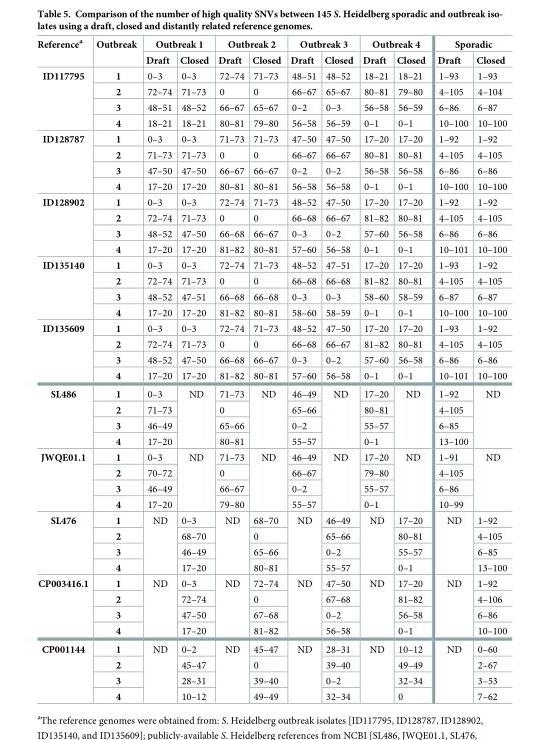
<table><thead><tr><td rowspan="2">Reference<sup>a</sup></td><td rowspan="2">Outbreak</td><td colspan="2">Outbreak 1</td><td colspan="2">Outbreak 2</td><td colspan="2">Outbreak 3</td><td colspan="2">Outbreak 4</td><td colspan="2">Sporadic</td></tr><tr><td>Draft</td><td>Closed</td><td>Draft</td><td>Closed</td><td>Draft</td><td>Closed</td><td>Draft</td><td>Closed</td><td>Draft</td><td>Closed</td></tr></thead><tbody><tr><td rowspan="4">ID117795</td><td>1</td><td>0–3</td><td>0–3</td><td>72–74</td><td>71–73</td><td>48–51</td><td>48–52</td><td>18–21</td><td>18–21</td><td>1–93</td><td>1–93</td></tr><tr><td>2</td><td>72–74</td><td>71–73</td><td>0</td><td>0</td><td>66–67</td><td>65–67</td><td>80–81</td><td>79–80</td><td>4–105</td><td>4–104</td></tr><tr><td>3</td><td>48–51</td><td>48–52</td><td>66–67</td><td>65–67</td><td>0–2</td><td>0–3</td><td>56–58</td><td>56–59</td><td>6–86</td><td>6–87</td></tr><tr><td>4</td><td>18–21</td><td>18–21</td><td>80–81</td><td>79–80</td><td>56–58</td><td>56–59</td><td>0–1</td><td>0–1</td><td>10–100</td><td>10–100</td></tr><tr><td rowspan="4">ID128787</td><td>1</td><td>0–3</td><td>0–3</td><td>71–73</td><td>71–73</td><td>47–50</td><td>47–50</td><td>17–20</td><td>17–20</td><td>1–92</td><td>1–92</td></tr><tr><td>2</td><td>71–73</td><td>71–73</td><td>0</td><td>0</td><td>66–67</td><td>66–67</td><td>80–81</td><td>80–81</td><td>4–105</td><td>4–105</td></tr><tr><td>3</td><td>47–50</td><td>47–50</td><td>66–67</td><td>66–67</td><td>0–2</td><td>0–2</td><td>56–58</td><td>56–58</td><td>6–86</td><td>6–86</td></tr><tr><td>4</td><td>17–20</td><td>17–20</td><td>80–81</td><td>80–81</td><td>56–58</td><td>56–58</td><td>0–1</td><td>0–1</td><td>10–100</td><td>10–100</td></tr><tr><td rowspan="4">ID128902</td><td>1</td><td>0–3</td><td>0–3</td><td>72–74</td><td>71–73</td><td>48–52</td><td>47–50</td><td>17–20</td><td>17–20</td><td>1–92</td><td>1–92</td></tr><tr><td>2</td><td>72–74</td><td>71–73</td><td>0</td><td>0</td><td>66–68</td><td>66–67</td><td>81–82</td><td>80–81</td><td>4–105</td><td>4–105</td></tr><tr><td>3</td><td>48–52</td><td>47–50</td><td>66–68</td><td>66–67</td><td>0–3</td><td>0–2</td><td>57–60</td><td>56–58</td><td>6–86</td><td>6–86</td></tr><tr><td>4</td><td>17–20</td><td>17–20</td><td>81–82</td><td>80–81</td><td>57–60</td><td>56–58</td><td>0–1</td><td>0–1</td><td>10–101</td><td>10–100</td></tr><tr><td rowspan="4">ID135140</td><td>1</td><td>0–3</td><td>0–3</td><td>72–74</td><td>71–73</td><td>48–52</td><td>47–51</td><td>17–20</td><td>17–20</td><td>1–93</td><td>1–92</td></tr><tr><td>2</td><td>72–74</td><td>71–73</td><td>0</td><td>0</td><td>66–68</td><td>66–68</td><td>81–82</td><td>80–81</td><td>4–105</td><td>4–105</td></tr><tr><td>3</td><td>48–52</td><td>47–51</td><td>66–68</td><td>66–68</td><td>0–3</td><td>0–3</td><td>58–60</td><td>58–59</td><td>6–87</td><td>6–87</td></tr><tr><td>4</td><td>17–20</td><td>17–20</td><td>81–82</td><td>80–81</td><td>58–60</td><td>58–59</td><td>0–1</td><td>0–1</td><td>10–100</td><td>10–100</td></tr><tr><td rowspan="4">ID135609</td><td>1</td><td>0–3</td><td>0–3</td><td>72–74</td><td>71–73</td><td>48–52</td><td>47–50</td><td>17–20</td><td>17–20</td><td>1–93</td><td>1–92</td></tr><tr><td>2</td><td>72–74</td><td>71–73</td><td>0</td><td>0</td><td>66–68</td><td>66–67</td><td>81–82</td><td>80–81</td><td>4–105</td><td>4–105</td></tr><tr><td>3</td><td>48–52</td><td>47–50</td><td>66–68</td><td>66–67</td><td>0–3</td><td>0–2</td><td>57–60</td><td>56–58</td><td>6–86</td><td>6–86</td></tr><tr><td>4</td><td>17–20</td><td>17–20</td><td>81–82</td><td>80–81</td><td>57–60</td><td>56–58</td><td>0–1</td><td>0–1</td><td>10–101</td><td>10–100</td></tr><tr><td rowspan="4">SL486</td><td>1</td><td>0–3</td><td rowspan="4">ND</td><td>71–73</td><td rowspan="4">ND</td><td>46–49</td><td rowspan="4">ND</td><td>17–20</td><td rowspan="4">ND</td><td>1–92</td><td rowspan="4">ND</td></tr><tr><td>2</td><td>71–73</td><td>0</td><td>65–66</td><td>80–81</td><td>4–105</td></tr><tr><td>3</td><td>46–49</td><td>65–66</td><td>0–2</td><td>55–57</td><td>6–85</td></tr><tr><td>4</td><td>17–20</td><td>80–81</td><td>55–57</td><td>0–1</td><td>13–100</td></tr><tr><td rowspan="4">JWQE01.1</td><td>1</td><td>0–3</td><td rowspan="4">ND</td><td>71–73</td><td rowspan="4">ND</td><td>46–49</td><td rowspan="4">ND</td><td>17–20</td><td rowspan="4">ND</td><td>1–91</td><td rowspan="4">ND</td></tr><tr><td>2</td><td>70–72</td><td>0</td><td>66–67</td><td>79–80</td><td>4–105</td></tr><tr><td>3</td><td>46–49</td><td>66–67</td><td>0–2</td><td>55–57</td><td>6–86</td></tr><tr><td>4</td><td>17–20</td><td>79–80</td><td>55–57</td><td>0–1</td><td>10–99</td></tr><tr><td rowspan="4">SL476</td><td>1</td><td rowspan="4">ND</td><td>0–3</td><td rowspan="4">ND</td><td>68–70</td><td rowspan="4">ND</td><td>46–49</td><td rowspan="4">ND</td><td>17–20</td><td rowspan="4">ND</td><td>1–92</td></tr><tr><td>2</td><td>68–70</td><td>0</td><td>65–66</td><td>80–81</td><td>4–105</td></tr><tr><td>3</td><td>46–49</td><td>65–66</td><td>0–2</td><td>55–57</td><td>6–85</td></tr><tr><td>4</td><td>17–20</td><td>80–81</td><td>55–57</td><td>0–1</td><td>13–100</td></tr><tr><td rowspan="4">CP003416.1</td><td>1</td><td rowspan="4">ND</td><td>0–3</td><td rowspan="4">ND</td><td>72–74</td><td rowspan="4">ND</td><td>47–50</td><td rowspan="4">ND</td><td>17–20</td><td rowspan="4">ND</td><td>1–92</td></tr><tr><td>2</td><td>72–74</td><td>0</td><td>67–68</td><td>81–82</td><td>4–106</td></tr><tr><td>3</td><td>47–50</td><td>67–68</td><td>0–2</td><td>56–58</td><td>6–86</td></tr><tr><td>4</td><td>17–20</td><td>81–82</td><td>56–58</td><td>0–1</td><td>10–100</td></tr><tr><td rowspan="4">CP001144</td><td>1</td><td rowspan="4">ND</td><td>0–2</td><td rowspan="4">ND</td><td>45–47</td><td rowspan="4">ND</td><td>28–31</td><td rowspan="4">ND</td><td>10–12</td><td rowspan="4">ND</td><td>0–60</td></tr><tr><td>2</td><td>45–47</td><td>0</td><td>39–40</td><td>49–49</td><td>2–67</td></tr><tr><td>3</td><td>28–31</td><td>39–40</td><td>0–2</td><td>32–34</td><td>3–53</td></tr><tr><td>4</td><td>10–12</td><td>49–49</td><td>32–34</td><td>0</td><td>7–62</td></tr></tbody></table>